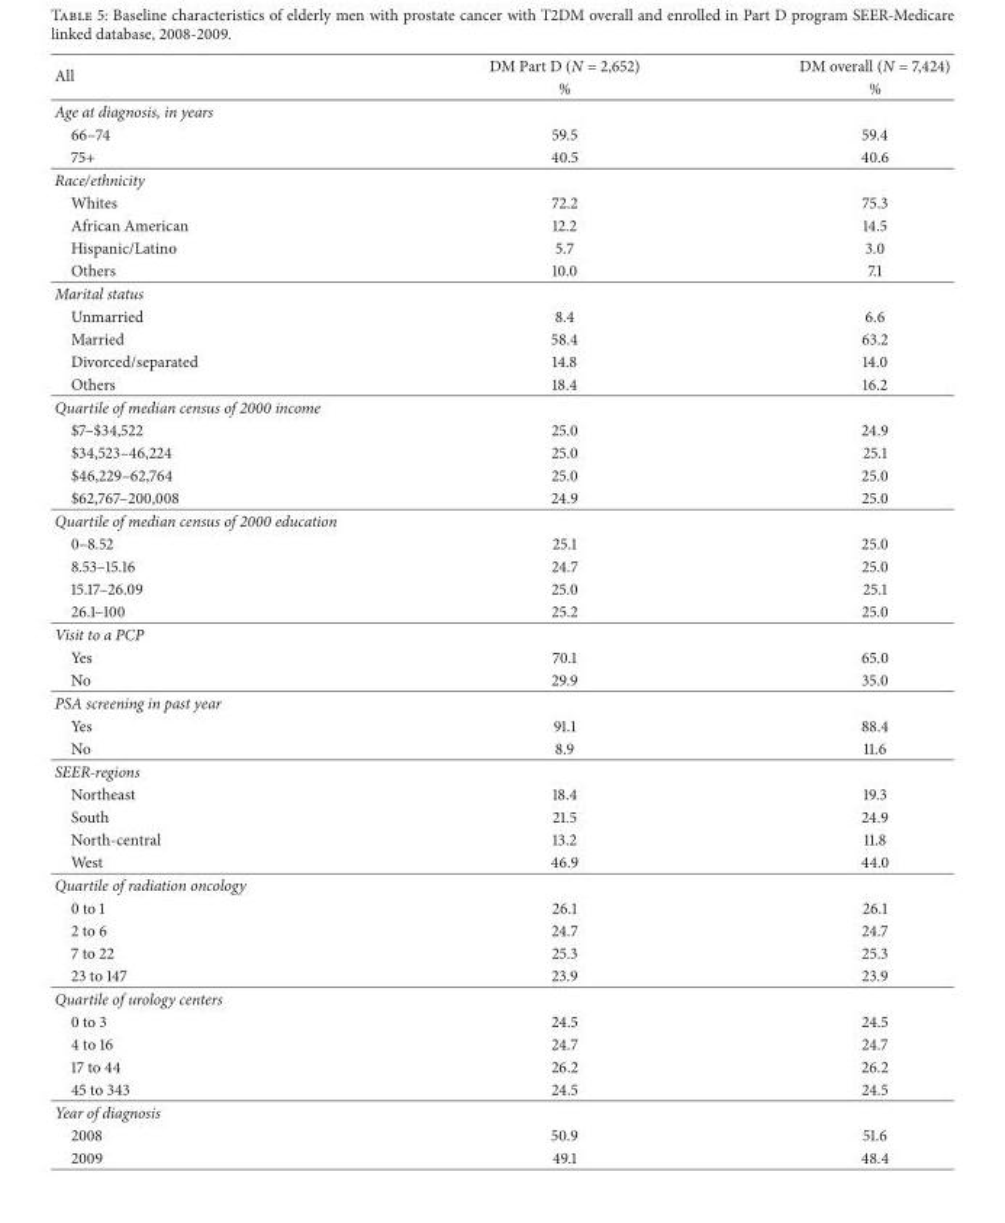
<table><thead><tr><td rowspan="2">All</td><td rowspan="2">DM Part D (N = 2,652) %</td><td rowspan="2">DM overall (N = 7,424) %</td></tr><tr></tr></thead><tbody><tr><td colspan="3">Age at diagnosis, in years</td></tr><tr><td>66–74</td><td>59.5</td><td>59.4</td></tr><tr><td>75+</td><td>40.5</td><td>40.6</td></tr><tr><td colspan="3">Race/ethnicity</td></tr><tr><td>Whites</td><td>72.2</td><td>75.3</td></tr><tr><td>African American</td><td>12.2</td><td>14.5</td></tr><tr><td>Hispanic/Latino</td><td>5.7</td><td>3.0</td></tr><tr><td>Others</td><td>10.0</td><td>7.1</td></tr><tr><td colspan="3">Marital status</td></tr><tr><td>Unmarried</td><td>8.4</td><td>6.6</td></tr><tr><td>Married</td><td>58.4</td><td>63.2</td></tr><tr><td>Divorced/separated</td><td>14.8</td><td>14.0</td></tr><tr><td>Others</td><td>18.4</td><td>16.2</td></tr><tr><td colspan="3">Quartile of median census of 2000 income</td></tr><tr><td>$7–$34,522</td><td>25.0</td><td>24.9</td></tr><tr><td>$34,523–46,224</td><td>25.0</td><td>25.1</td></tr><tr><td>$46,229–62,764</td><td>25.0</td><td>25.0</td></tr><tr><td>$62,767–200,008</td><td>24.9</td><td>25.0</td></tr><tr><td colspan="3">Quartile of median census of 2000 education</td></tr><tr><td>0–8.52</td><td>25.1</td><td>25.0</td></tr><tr><td>8.53–15.16</td><td>24.7</td><td>25.0</td></tr><tr><td>15.17–26.09</td><td>25.0</td><td>25.1</td></tr><tr><td>26.1–100</td><td>25.2</td><td>25.0</td></tr><tr><td colspan="3">Visit to a PCP</td></tr><tr><td>Yes</td><td>70.1</td><td>65.0</td></tr><tr><td>No</td><td>29.9</td><td>35.0</td></tr><tr><td colspan="3">PSA screening in past year</td></tr><tr><td>Yes</td><td>91.1</td><td>88.4</td></tr><tr><td>No</td><td>8.9</td><td>11.6</td></tr><tr><td colspan="3">SEER-regions</td></tr><tr><td>Northeast</td><td>18.4</td><td>19.3</td></tr><tr><td>South</td><td>21.5</td><td>24.9</td></tr><tr><td>North-central</td><td>13.2</td><td>11.8</td></tr><tr><td>West</td><td>46.9</td><td>44.0</td></tr><tr><td colspan="3">Quartile of radiation oncology</td></tr><tr><td>0 to 1</td><td>26.1</td><td>26.1</td></tr><tr><td>2 to 6</td><td>24.7</td><td>24.7</td></tr><tr><td>7 to 22</td><td>25.3</td><td>25.3</td></tr><tr><td>23 to 147</td><td>23.9</td><td>23.9</td></tr><tr><td colspan="3">Quartile of urology centers</td></tr><tr><td>0 to 3</td><td>24.5</td><td>24.5</td></tr><tr><td>4 to 16</td><td>24.7</td><td>24.7</td></tr><tr><td>17 to 44</td><td>26.2</td><td>26.2</td></tr><tr><td>45 to 343</td><td>24.5</td><td>24.5</td></tr><tr><td colspan="3">Year of diagnosis</td></tr><tr><td>2008</td><td>50.9</td><td>51.6</td></tr><tr><td>2009</td><td>49.1</td><td>48.4</td></tr></tbody></table>